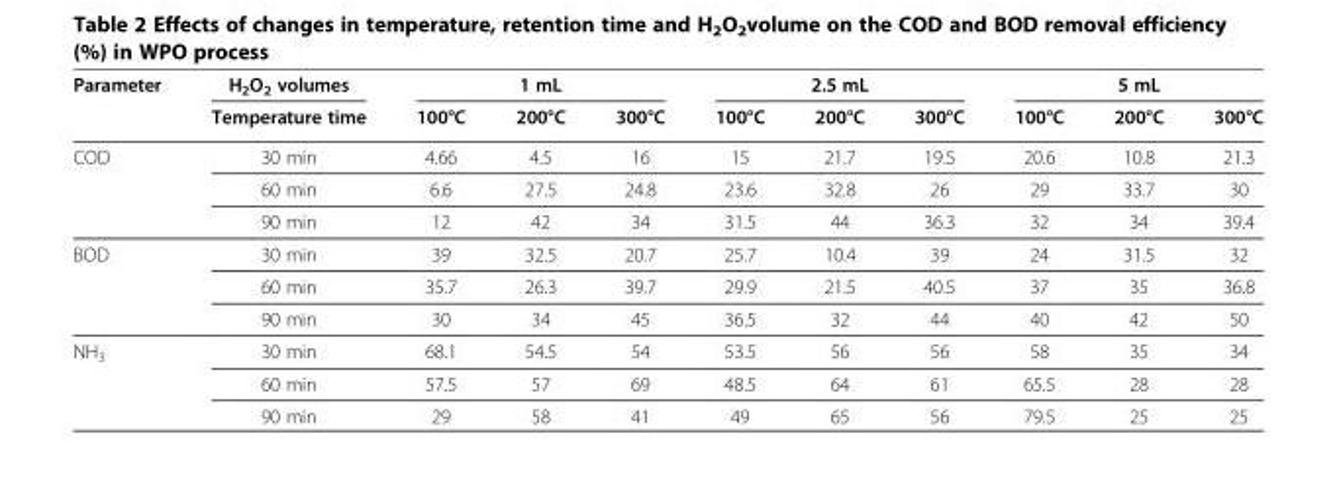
<table><thead><tr><td rowspan="2">Parameter</td><td rowspan="2">H<sub>2</sub>O<sub>2</sub> volumes Temperature time</td><td colspan="3">1 mL</td><td colspan="3">2.5 mL</td><td colspan="3">5 mL</td></tr><tr><td>100°C</td><td>200°C</td><td>300°C</td><td>100°C</td><td>200°C</td><td>300°C</td><td>100°C</td><td>200°C</td><td>300°C</td></tr></thead><tbody><tr><td rowspan="3">COD</td><td>30 min</td><td>4.66</td><td>4.5</td><td>16</td><td>15</td><td>21.7</td><td>19.5</td><td>20.6</td><td>10.8</td><td>21.3</td></tr><tr><td>60 min</td><td>6.6</td><td>27.5</td><td>24.8</td><td>23.6</td><td>32.8</td><td>26</td><td>29</td><td>33.7</td><td>30</td></tr><tr><td>90 min</td><td>12</td><td>42</td><td>34</td><td>31.5</td><td>44</td><td>36.3</td><td>32</td><td>34</td><td>39.4</td></tr><tr><td rowspan="3">BOD</td><td>30 min</td><td>39</td><td>32.5</td><td>20.7</td><td>25.7</td><td>10.4</td><td>39</td><td>24</td><td>31.5</td><td>32</td></tr><tr><td>60 min</td><td>35.7</td><td>26.3</td><td>39.7</td><td>29.9</td><td>21.5</td><td>40.5</td><td>37</td><td>35</td><td>36.8</td></tr><tr><td>90 min</td><td>30</td><td>34</td><td>45</td><td>36.5</td><td>32</td><td>44</td><td>40</td><td>42</td><td>50</td></tr><tr><td rowspan="3">NH<sub>3</sub></td><td>30 min</td><td>68.1</td><td>54.5</td><td>54</td><td>53.5</td><td>56</td><td>56</td><td>58</td><td>35</td><td>34</td></tr><tr><td>60 min</td><td>57.5</td><td>57</td><td>69</td><td>48.5</td><td>64</td><td>61</td><td>65.5</td><td>28</td><td>28</td></tr><tr><td>90 min</td><td>29</td><td>58</td><td>41</td><td>49</td><td>65</td><td>56</td><td>79.5</td><td>25</td><td>25</td></tr></tbody></table>